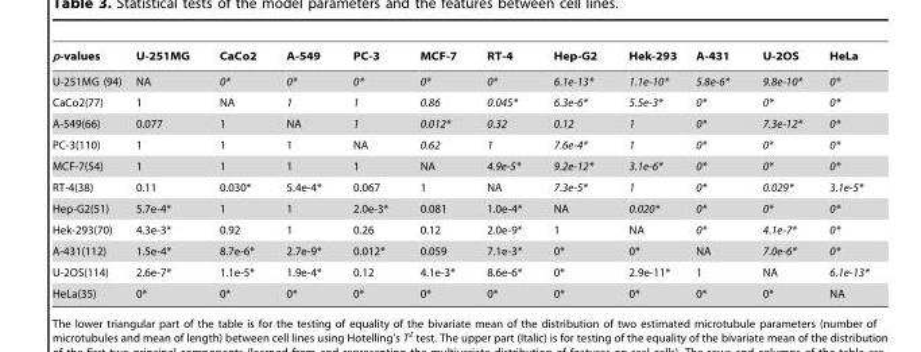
<table><thead><tr><td>p-values</td><td>U-251MG</td><td>CaCo2</td><td>A-549</td><td>PC-3</td><td>MCF-7</td><td>RT-4</td><td>Hep-G2</td><td>Hek-293</td><td>A-431</td><td>U-2OS</td><td>HeLa</td></tr></thead><tbody><tr><td>U-251MG (94)</td><td>NA</td><td>0*</td><td>0*</td><td>0*</td><td>0*</td><td>0*</td><td>6.1e-13*</td><td>1.1e-10*</td><td>5.8e-6*</td><td>9.8e-10*</td><td>0*</td></tr><tr><td>CaCo2(77)</td><td>1</td><td>NA</td><td>1</td><td>1</td><td>0.86</td><td>0.045*</td><td>6.3e-6*</td><td>5.5e-3*</td><td>0*</td><td>0*</td><td>0*</td></tr><tr><td>A-549(66)</td><td>0.077</td><td>1</td><td>NA</td><td>1</td><td>0.012*</td><td>0.32</td><td>0.12</td><td>1</td><td>0*</td><td>7.3e-12*</td><td>0*</td></tr><tr><td>PC-3(110)</td><td>1</td><td>1</td><td>1</td><td>NA</td><td>0.62</td><td>1</td><td>7.6e-4*</td><td>1</td><td>0*</td><td>0*</td><td>0*</td></tr><tr><td>MCF-7(54)</td><td>1</td><td>1</td><td>1</td><td>1</td><td>NA</td><td>4.9e-5*</td><td>9.2e-12*</td><td>3.1e-6*</td><td>0*</td><td>0*</td><td>0*</td></tr><tr><td>RT-4(38)</td><td>0.11</td><td>0.030*</td><td>5.4e-4*</td><td>0.067</td><td>1</td><td>NA</td><td>7.3e-5*</td><td>1</td><td>0*</td><td>0.029*</td><td>3.1e-5*</td></tr><tr><td>Hep-G2(51)</td><td>5.7e-4*</td><td>1</td><td>1</td><td>2.0e-3*</td><td>0.081</td><td>1.0e-4*</td><td>NA</td><td>0.020*</td><td>0*</td><td>0*</td><td>0*</td></tr><tr><td>Hek-293(70)</td><td>4.3e-3*</td><td>0.92</td><td>1</td><td>0.26</td><td>0.12</td><td>2.0e-9*</td><td>1</td><td>NA</td><td>0*</td><td>4.1e-7*</td><td>0*</td></tr><tr><td>A-431(112)</td><td>1.5e-4*</td><td>8.7e-6*</td><td>2.7e-9*</td><td>0.012*</td><td>0.059</td><td>7.1e-3*</td><td>0*</td><td>0*</td><td>NA</td><td>7.0e-6*</td><td>0*</td></tr><tr><td>U-2OS(114)</td><td>2.6e-7*</td><td>1.1e-5*</td><td>1.9e-4*</td><td>0.12</td><td>4.1e-3*</td><td>8.6e-6*</td><td>0*</td><td>2.9e-11*</td><td>1</td><td>NA</td><td>6.1e-13*</td></tr><tr><td>HeLa(35)</td><td>0*</td><td>0*</td><td>0*</td><td>0*</td><td>0*</td><td>0*</td><td>0*</td><td>0*</td><td>0*</td><td>0*</td><td>NA</td></tr></tbody></table>